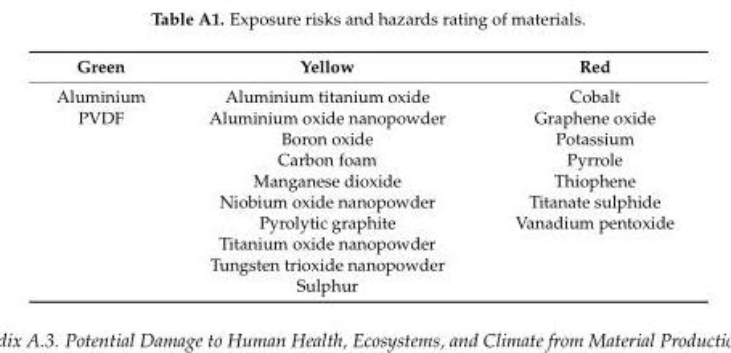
<table><thead><tr><td>Green</td><td>Yellow</td><td>Red</td></tr></thead><tbody><tr><td>Aluminium</td><td>Aluminium titanium oxide</td><td>Cobalt</td></tr><tr><td rowspan="9">PVDF</td><td>Aluminium oxide nanopowder</td><td>Graphene oxide</td></tr><tr><td>Boron oxide</td><td>Potassium</td></tr><tr><td>Carbon foam</td><td>Pyrrole</td></tr><tr><td>Manganese dioxide</td><td>Thiophene</td></tr><tr><td>Niobium oxide nanopowder</td><td>Titanate sulphide</td></tr><tr><td>Pyrolytic graphite</td><td>Vanadium pentoxide</td></tr><tr><td>Titanium oxide nanopowder</td><td></td></tr><tr><td>Tungsten trioxide nanopowder</td><td></td></tr><tr><td>Sulphur</td><td></td></tr></tbody></table>